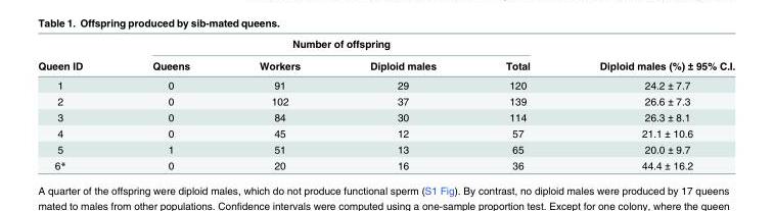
<table><thead><tr><td rowspan="2">Queen ID</td><td colspan="4">Number of offspring</td><td rowspan="2">Diploid males (%) ± 95% C.I.</td></tr><tr><td>Queens</td><td>Workers</td><td>Diploid males</td><td>Total</td></tr></thead><tbody><tr><td>1</td><td>0</td><td>91</td><td>29</td><td>120</td><td>24.2 ± 7.7</td></tr><tr><td>2</td><td>0</td><td>102</td><td>37</td><td>139</td><td>26.6 ± 7.3</td></tr><tr><td>3</td><td>0</td><td>84</td><td>30</td><td>114</td><td>26.3 ± 8.1</td></tr><tr><td>4</td><td>0</td><td>45</td><td>12</td><td>57</td><td>21.1 ± 10.6</td></tr><tr><td>5</td><td>1</td><td>51</td><td>13</td><td>65</td><td>20.0 ± 9.7</td></tr><tr><td>6*</td><td>0</td><td>20</td><td>16</td><td>36</td><td>44.4 ± 16.2</td></tr></tbody></table>